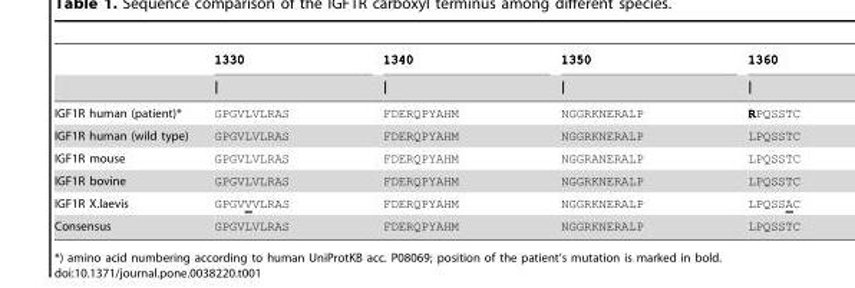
<table><thead><tr><td rowspan="2"></td><td rowspan="2">1330 |</td><td rowspan="2">1340 |</td><td rowspan="2">1350 |</td><td rowspan="2">1360 |</td></tr><tr></tr></thead><tbody><tr><td>IGF1R human (patient)*</td><td>GPGVLVLRAS</td><td>FDERQPYAHM</td><td>NGGRKNERALP</td><td>RRPQSSTC</td></tr><tr><td>IGF1R human (wild type)</td><td>GPGVLVLRAS</td><td>FDERQPYAHM</td><td>NGGRKNERALP</td><td>LPQSSTC</td></tr><tr><td>IGF1R mouse</td><td>GPGVLVLRAS</td><td>FDERQPYAHM</td><td>NGGRANERALP</td><td>LPQSSTC</td></tr><tr><td>IGF1R bovine</td><td>GPGVLVLRAS</td><td>FDERQPYAHM</td><td>NGGRKNERALP</td><td>LPQSSTC</td></tr><tr><td>IGF1R X.laevis</td><td>GPGVVVLRAS</td><td>FDERQPYAHM</td><td>NGGRKNERALP</td><td>LPQSSAC</td></tr><tr><td>Consensus</td><td>GPGVLVLRAS</td><td>FDERQPYAHM</td><td>NGGRKNERALP</td><td>LPQSSTC</td></tr></tbody></table>